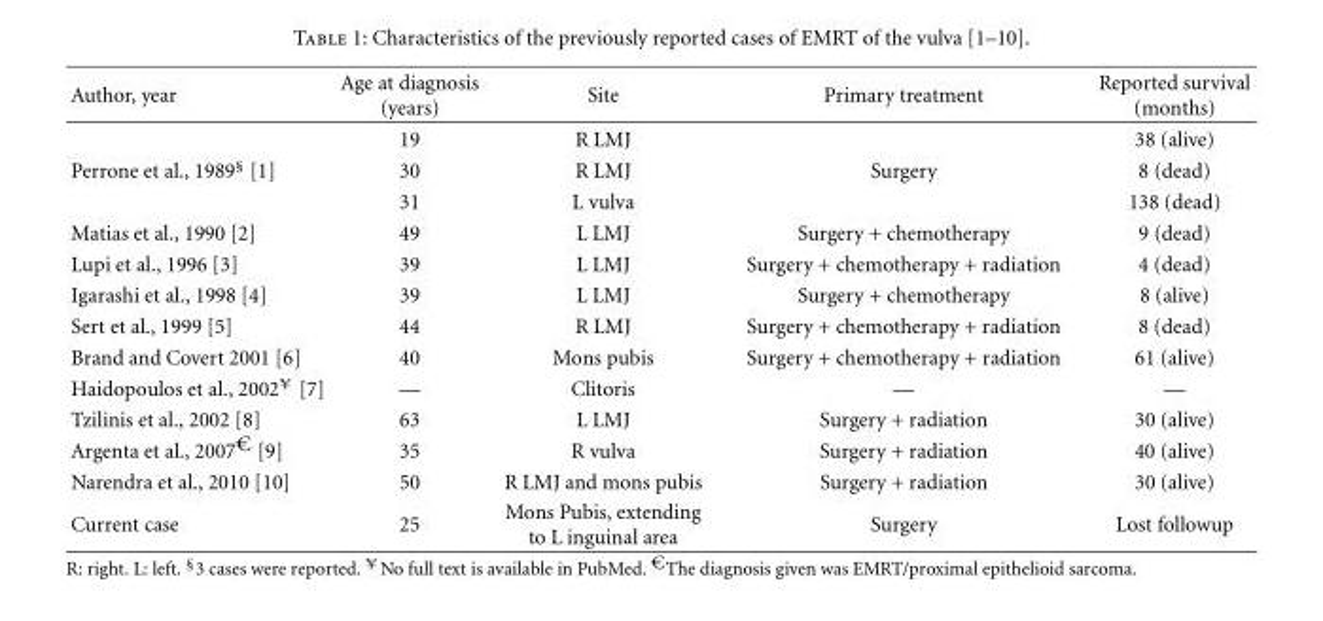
<table><thead><tr><td>Author, year</td><td>Age at diagnosis (years)</td><td>Site</td><td>Primary treatment</td><td>Reported survival (months)</td></tr></thead><tbody><tr><td></td><td>19</td><td>R LMJ</td><td></td><td>38 (alive)</td></tr><tr><td rowspan="2">Perrone et al., 1989<sup>§</sup> [1]</td><td>30</td><td>R LMJ</td><td>Surgery</td><td>8 (dead)</td></tr><tr><td>31</td><td>L vulva</td><td></td><td>138 (dead)</td></tr><tr><td>Matias et al., 1990 [2]</td><td>49</td><td>L LMJ</td><td>Surgery + chemotherapy</td><td>9 (dead)</td></tr><tr><td>Lupi et al., 1996 [3]</td><td>39</td><td>L LMJ</td><td>Surgery + chemotherapy + radiation</td><td>4 (dead)</td></tr><tr><td>Igarashi et al., 1998 [4]</td><td>39</td><td>L LMJ</td><td>Surgery + chemotherapy</td><td>8 (alive)</td></tr><tr><td>Sert et al., 1999 [5]</td><td>44</td><td>R LMJ</td><td>Surgery + chemotherapy + radiation</td><td>8 (dead)</td></tr><tr><td>Brand and Covert 2001 [6]</td><td>40</td><td>Mons pubis</td><td>Surgery + chemotherapy + radiation</td><td>61 (alive)</td></tr><tr><td>Haidopoulos et al., 2002<sup>¥</sup> [7]</td><td>—</td><td>Clitoris</td><td>—</td><td>—</td></tr><tr><td>Tzilinis et al., 2002 [8]</td><td>63</td><td>L LMJ</td><td>Surgery + radiation</td><td>30 (alive)</td></tr><tr><td>Argenta et al., 2007<sup>€</sup> [9]</td><td>35</td><td>R vulva</td><td>Surgery + radiation</td><td>40 (alive)</td></tr><tr><td>Narendra et al., 2010 [10]</td><td>50</td><td>R LMJ and mons pubis</td><td>Surgery + radiation</td><td>30 (alive)</td></tr><tr><td>Current case</td><td>25</td><td>Mons Pubis, extending to L inguinal area</td><td>Surgery</td><td>Lost followup</td></tr></tbody></table>